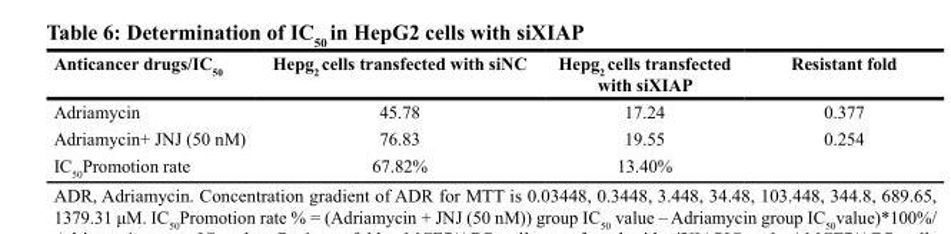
<table><thead><tr><td>Anticancer drugs/IC<sub>50</sub></td><td>Hepg<sub>2</sub> cells transfected with siNC</td><td>Hepg<sub>2</sub> cells transfected with siXIAP</td><td>Resistant fold</td></tr></thead><tbody><tr><td>Adriamycin</td><td>45.78</td><td>17.24</td><td>0.377</td></tr><tr><td>Adriamycin+ JNJ (50 nM)</td><td>76.83</td><td>19.55</td><td>0.254</td></tr><tr><td>IC<sub>50</sub>Promotion rate</td><td>67.82%</td><td>13.40%</td><td></td></tr></tbody></table>